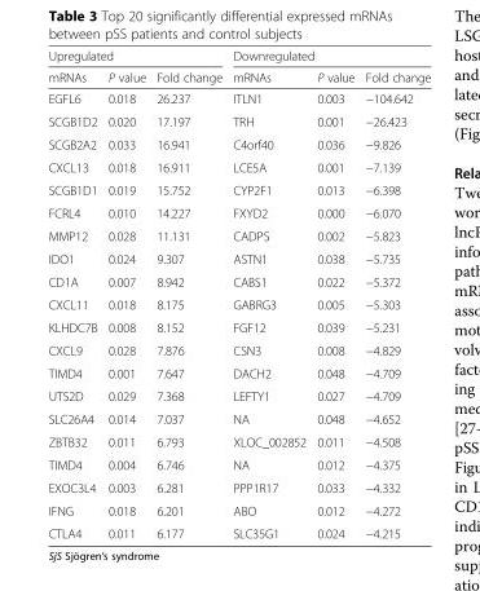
<table><thead><tr><td colspan="3">Upregulated</td><td colspan="3">Downregulated</td></tr><tr><td>mRNAs</td><td>P value</td><td>Fold change</td><td>mRNAs</td><td>P value</td><td>Fold change</td></tr></thead><tbody><tr><td>EGFL6</td><td>0.018</td><td>26.237</td><td>ITLN1</td><td>0.003</td><td>−104.642</td></tr><tr><td>SCGB1D2</td><td>0.020</td><td>17.197</td><td>TRH</td><td>0.001</td><td>−26.423</td></tr><tr><td>SCGB2A2</td><td>0.033</td><td>16.941</td><td>C4orf40</td><td>0.036</td><td>−9.826</td></tr><tr><td>CXCL13</td><td>0.018</td><td>16.911</td><td>LCE5A</td><td>0.001</td><td>−7.139</td></tr><tr><td>SCGB1D1</td><td>0.019</td><td>15.752</td><td>CYP2F1</td><td>0.013</td><td>−6.398</td></tr><tr><td>FCRL4</td><td>0.010</td><td>14.227</td><td>FXYD2</td><td>0.000</td><td>−6.070</td></tr><tr><td>MMP12</td><td>0.028</td><td>11.131</td><td>CADPS</td><td>0.002</td><td>−5.823</td></tr><tr><td>IDO1</td><td>0.024</td><td>9.307</td><td>ASTN1</td><td>0.038</td><td>−5.735</td></tr><tr><td>CD1A</td><td>0.007</td><td>8.942</td><td>CABS1</td><td>0.022</td><td>−5.372</td></tr><tr><td>CXCL11</td><td>0.018</td><td>8.175</td><td>GABRG3</td><td>0.005</td><td>−5.303</td></tr><tr><td>KLHDC7B</td><td>0.008</td><td>8.152</td><td>FGF12</td><td>0.039</td><td>−5.231</td></tr><tr><td>CXCL9</td><td>0.028</td><td>7.876</td><td>CSN3</td><td>0.008</td><td>−4.829</td></tr><tr><td>TIMD4</td><td>0.001</td><td>7.647</td><td>DACH2</td><td>0.048</td><td>−4.709</td></tr><tr><td>UTS2D</td><td>0.029</td><td>7.368</td><td>LEFTY1</td><td>0.027</td><td>−4.709</td></tr><tr><td>SLC26A4</td><td>0.014</td><td>7.037</td><td>NA</td><td>0.048</td><td>−4.652</td></tr><tr><td>ZBTB32</td><td>0.011</td><td>6.793</td><td>XLOC_002852</td><td>0.011</td><td>−4.508</td></tr><tr><td>TIMD4</td><td>0.004</td><td>6.746</td><td>NA</td><td>0.012</td><td>−4.375</td></tr><tr><td>EXOC3L4</td><td>0.003</td><td>6.281</td><td>PPP1R17</td><td>0.033</td><td>−4.332</td></tr><tr><td>IFNG</td><td>0.018</td><td>6.201</td><td>ABO</td><td>0.012</td><td>−4.272</td></tr><tr><td>CTLA4</td><td>0.011</td><td>6.177</td><td>SLC35G1</td><td>0.024</td><td>−4.215</td></tr></tbody></table>